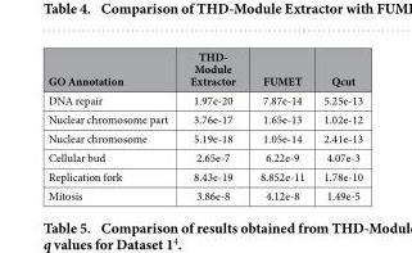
<table><thead><tr><td>GO Annotation</td><td>THD- Module Extractor</td><td>FUMET</td><td>Qcut</td></tr></thead><tbody><tr><td>DNA repair</td><td>1.97e-20</td><td>7.87e-14</td><td>5.25e-13</td></tr><tr><td>Nuclear chromosome part</td><td>3.76e-17</td><td>1.65e-13</td><td>1.02e-12</td></tr><tr><td>Nuclear chromosome</td><td>5.19e-18</td><td>1.05e-14</td><td>2.41e-13</td></tr><tr><td>Cellular bud</td><td>2.65e-7</td><td>6.22e-9</td><td>4.07e-3</td></tr><tr><td>Replication fork</td><td>8.43e-19</td><td>8.852e-11</td><td>1.78e-10</td></tr><tr><td>Mitosis</td><td>3.86e-8</td><td>4.12e-8</td><td>1.49e-5</td></tr></tbody></table>